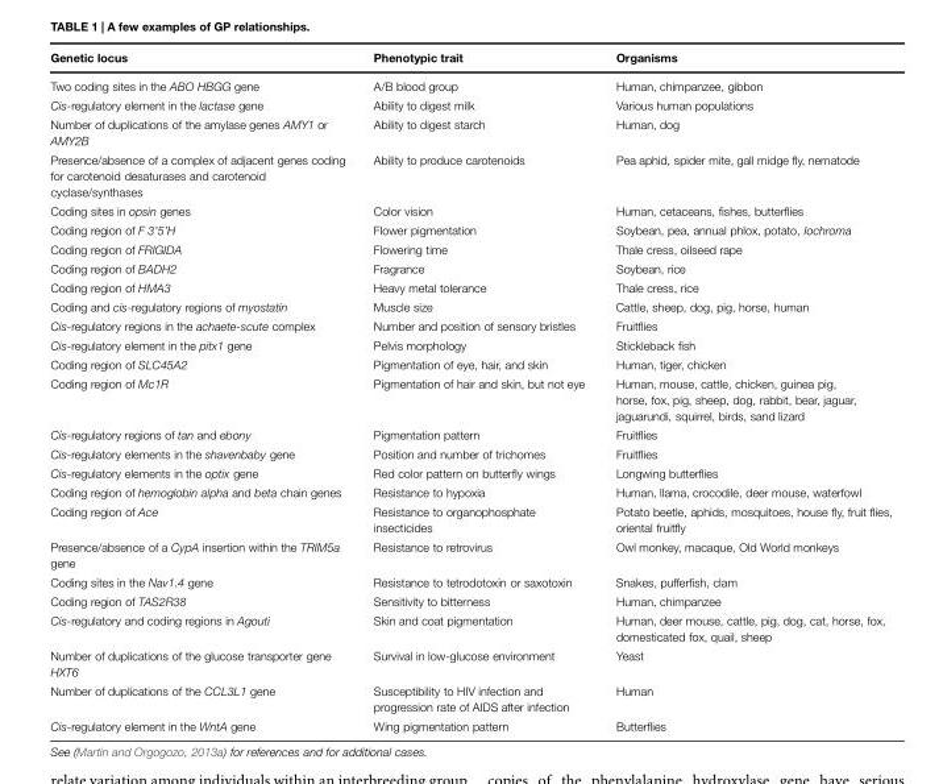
<table><thead><tr><td>Genetic locus</td><td>Phenotypic trait</td><td>Organisms</td></tr></thead><tbody><tr><td>Two coding sites in the ABO HBGG gene</td><td>A/B blood group</td><td>Human, chimpanzee, gibbon</td></tr><tr><td>Cis-regulatory element in the lactase gene</td><td>Ability to digest milk</td><td>Various human populations</td></tr><tr><td>Number of duplications of the amylase genes AMY1 or AMY2B</td><td>Ability to digest starch</td><td>Human, dog</td></tr><tr><td>Presence/absence of a complex of adjacent genes coding for carotenoid desaturases and carotenoid cyclase/synthases</td><td>Ability to produce carotenoids</td><td>Pea aphid, spider mite, gall midge fly, nematode</td></tr><tr><td>Coding sites in opsin genes</td><td>Color vision</td><td>Human, cetaceans, fishes, butterflies</td></tr><tr><td>Coding region of F 3’5’H</td><td>Flower pigmentation</td><td>Soybean, pea, annual phlox, potato, Iochroma</td></tr><tr><td>Coding region of FRIGIDA</td><td>Flowering time</td><td>Thale cress, oilseed rape</td></tr><tr><td>Coding region of BADH2</td><td>Fragrance</td><td>Soybean, rice</td></tr><tr><td>Coding region of HMA3</td><td>Heavy metal tolerance</td><td>Thale cress, rice</td></tr><tr><td>Coding and cis-regulatory regions of myostatin</td><td>Muscle size</td><td>Cattle, sheep, dog, pig, horse, human</td></tr><tr><td>Cis-regulatory regions in the achaete-scute complex</td><td>Number and position of sensory bristles</td><td>Fruitflies</td></tr><tr><td>Cis-regulatory element in the pitx1 gene</td><td>Pelvis morphology</td><td>Stickleback fish</td></tr><tr><td>Coding region of SLC45A2</td><td>Pigmentation of eye, hair, and skin</td><td>Human, tiger, chicken</td></tr><tr><td>Coding region of Mc1R</td><td>Pigmentation of hair and skin, but not eye</td><td>Human, mouse, cattle, chicken, guinea pig, horse, fox, pig, sheep, dog, rabbit, bear, jaguar, jaguarundi, squirrel, birds, sand lizard</td></tr><tr><td>Cis-regulatory regions of tan and ebony</td><td>Pigmentation pattern</td><td>Fruitflies</td></tr><tr><td>Cis-regulatory elements in the shavenbaby gene</td><td>Position and number of trichomes</td><td>Fruitflies</td></tr><tr><td>Cis-regulatory elements in the optix gene</td><td>Red color pattern on butterfly wings</td><td>Longwing butterflies</td></tr><tr><td>Coding region of hemoglobin alpha and beta chain genes</td><td>Resistance to hypoxia</td><td>Human, llama, crocodile, deer mouse, waterfowl</td></tr><tr><td>Coding region of Ace</td><td>Resistance to organophosphate insecticides</td><td>Potato beetle, aphids, mosquitoes, house fly, fruit flies, oriental fruitfly</td></tr><tr><td>Presence/absence of a CypA insertion within the TRIM5a gene</td><td>Resistance to retrovirus</td><td>Owl monkey, macaque, Old World monkeys</td></tr><tr><td>Coding sites in the Nav1.4 gene</td><td>Resistance to tetrodotoxin or saxotoxin</td><td>Snakes, pufferfish, clam</td></tr><tr><td>Coding region of TAS2R38</td><td>Sensitivity to bitterness</td><td>Human, chimpanzee</td></tr><tr><td>Cis-regulatory and coding regions in Agouti</td><td>Skin and coat pigmentation</td><td>Human, deer mouse, cattle, pig, dog, cat, horse, fox, domesticated fox, quail, sheep</td></tr><tr><td>Number of duplications of the glucose transporter gene HXT6</td><td>Survival in low-glucose environment</td><td>Yeast</td></tr><tr><td>Number of duplications of the CCL3L1 gene</td><td>Susceptibility to HIV infection and progression rate of AIDS after infection</td><td>Human</td></tr><tr><td>Cis-regulatory element in the WntA gene</td><td>Wing pigmentation pattern</td><td>Butterflies</td></tr></tbody></table>